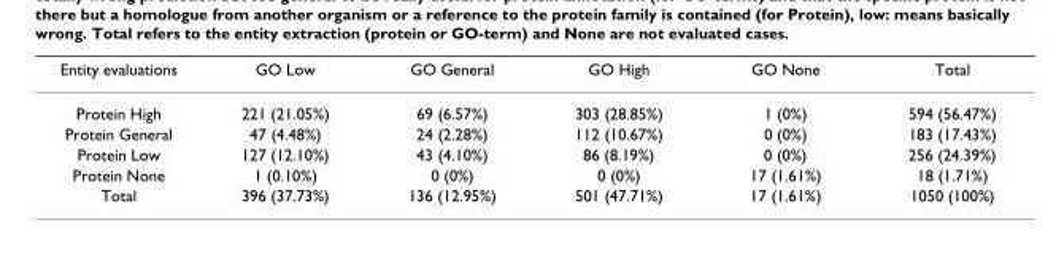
<table><thead><tr><td>Entity evaluations</td><td>GO Low</td><td>GO General</td><td>GO High</td><td>GO None</td><td>Total</td></tr></thead><tbody><tr><td>Protein High</td><td>221 (21.05%)</td><td>69 (6.57%)</td><td>303 (28.85%)</td><td>1 (0%)</td><td>594 (56.47%)</td></tr><tr><td>Protein General</td><td>47 (4.48%)</td><td>24 (2.28%)</td><td>112 (10.67%)</td><td>0 (0%)</td><td>183 (17.43%)</td></tr><tr><td>Protein Low</td><td>127 (12.10%)</td><td>43 (4.10%)</td><td>86 (8.19%)</td><td>0 (0%)</td><td>256 (24.39%)</td></tr><tr><td>Protein None</td><td>1 (0.10%)</td><td>0 (0%)</td><td>0 (0%)</td><td>17 (1.61%)</td><td>18 (1.71%)</td></tr><tr><td>Total</td><td>396 (37.73%)</td><td>136 (12.95%)</td><td>501 (47.71%)</td><td>17 (1.61%)</td><td>1050 (100%)</td></tr></tbody></table>